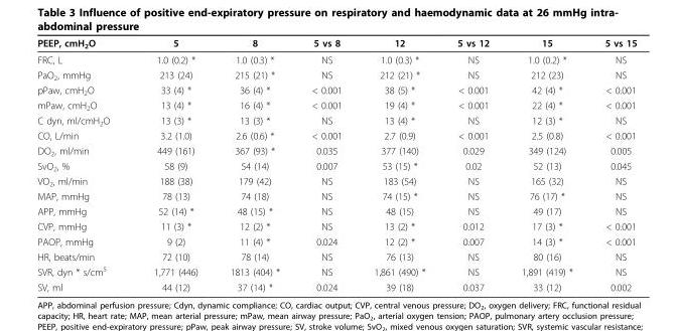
<table><thead><tr><td>PEEP, cmH<sub>2</sub>O</td><td>5</td><td>8</td><td>5 vs 8</td><td>12</td><td>5 vs 12</td><td>15</td><td>5 vs 15</td></tr></thead><tbody><tr><td>FRC, L</td><td>1.0 (0.2) *</td><td>1.0 (0.3) *</td><td>NS</td><td>1.0 (0.3) *</td><td>NS</td><td>1.0 (0.2) *</td><td>NS</td></tr><tr><td>PaO<sub>2</sub>, mmHg</td><td>213 (24)</td><td>215 (21) *</td><td>NS</td><td>212 (21) *</td><td>NS</td><td>212 (23)</td><td>NS</td></tr><tr><td>pPaw, cmH<sub>2</sub>O</td><td>33 (4) *</td><td>36 (4) *</td><td>&lt; 0.001</td><td>38 (5) *</td><td>&lt; 0.001</td><td>42 (4) *</td><td>&lt; 0.001</td></tr><tr><td>mPaw, cmH<sub>2</sub>O</td><td>13 (4) *</td><td>16 (4) *</td><td>&lt; 0.001</td><td>19 (4) *</td><td>&lt; 0.001</td><td>22 (4) *</td><td>&lt; 0.001</td></tr><tr><td>C dyn, ml/cmH<sub>2</sub>O</td><td>13 (3) *</td><td>13 (3) *</td><td>NS</td><td>13 (4) *</td><td>NS</td><td>12 (3) *</td><td>NS</td></tr><tr><td>CO, L/min</td><td>3.2 (1.0)</td><td>2.6 (0.6) *</td><td>&lt; 0.001</td><td>2.7 (0.9)</td><td>&lt; 0.001</td><td>2.5 (0.8)</td><td>&lt; 0.001</td></tr><tr><td>DO<sub>2</sub>, ml/min</td><td>449 (161)</td><td>367 (93) *</td><td>0.035</td><td>377 (140)</td><td>0.029</td><td>349 (124)</td><td>0.005</td></tr><tr><td>SvO<sub>2</sub>, %</td><td>58 (9)</td><td>54 (14)</td><td>0.007</td><td>53 (15) *</td><td>0.02</td><td>52 (13)</td><td>0.045</td></tr><tr><td>VO<sub>2</sub>, ml/min</td><td>188 (38)</td><td>179 (42)</td><td>NS</td><td>183 (54)</td><td>NS</td><td>165 (32)</td><td>NS</td></tr><tr><td>MAP, mmHg</td><td>78 (13)</td><td>74 (18)</td><td>NS</td><td>74 (15) *</td><td>NS</td><td>76 (17) *</td><td>NS</td></tr><tr><td>APP, mmHg</td><td>52 (14) *</td><td>48 (15) *</td><td>NS</td><td>48 (15)</td><td>NS</td><td>49 (17)</td><td>NS</td></tr><tr><td>CVP, mmHg</td><td>11 (3) *</td><td>12 (2) *</td><td>NS</td><td>13 (2) *</td><td>0.012</td><td>17 (3) *</td><td>&lt; 0.001</td></tr><tr><td>PAOP, mmHg</td><td>9 (2)</td><td>11 (4) *</td><td>0.024</td><td>12 (2) *</td><td>0.007</td><td>14 (3) *</td><td>&lt; 0.001</td></tr><tr><td>HR, beats/min</td><td>72 (10)</td><td>78 (14)</td><td>NS</td><td>76 (13)</td><td>NS</td><td>80 (16)</td><td>NS</td></tr><tr><td>SVR, dyn * s/cm<sup>5</sup></td><td>1,771 (446)</td><td>1813 (404) *</td><td>NS</td><td>1,861 (490) *</td><td>NS</td><td>1,891 (419) *</td><td>NS</td></tr><tr><td>SV, ml</td><td>44 (12)</td><td>37 (14) *</td><td>0.024</td><td>39 (18)</td><td>0.037</td><td>33 (12)</td><td>0.002</td></tr></tbody></table>